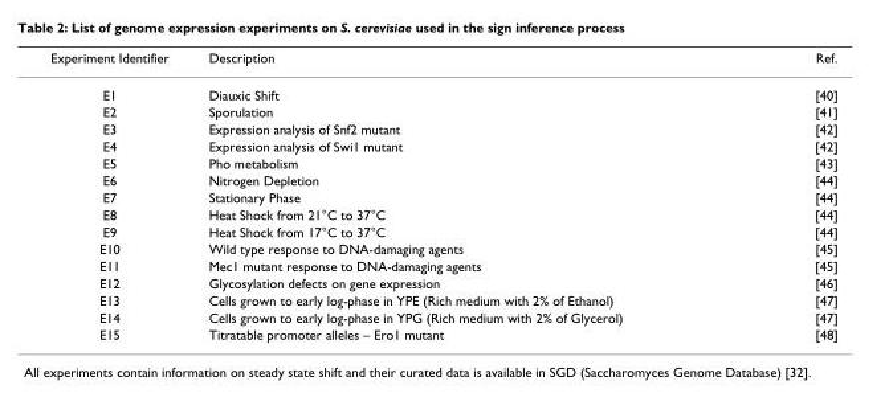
<table><thead><tr><td>Experiment Identifier</td><td>Description</td><td>Ref.</td></tr></thead><tbody><tr><td>E1</td><td>Diauxic Shift</td><td>[40]</td></tr><tr><td>E2</td><td>Sporulation</td><td>[41]</td></tr><tr><td>E3</td><td>Expression analysis of Snf2 mutant</td><td>[42]</td></tr><tr><td>E4</td><td>Expression analysis of Swi1 mutant</td><td>[42]</td></tr><tr><td>E5</td><td>Pho metabolism</td><td>[43]</td></tr><tr><td>E6</td><td>Nitrogen Depletion</td><td>[44]</td></tr><tr><td>E7</td><td>Stationary Phase</td><td>[44]</td></tr><tr><td>E8</td><td>Heat Shock from 21°C to 37°C</td><td>[44]</td></tr><tr><td>E9</td><td>Heat Shock from 17°C to 37°C</td><td>[44]</td></tr><tr><td>E10</td><td>Wild type response to DNA-damaging agents</td><td>[45]</td></tr><tr><td>E11</td><td>Mec1 mutant response to DNA-damaging agents</td><td>[45]</td></tr><tr><td>E12</td><td>Glycosylation defects on gene expression</td><td>[46]</td></tr><tr><td>E13</td><td>Cells grown to early log-phase in YPE (Rich medium with 2% of Ethanol)</td><td>[47]</td></tr><tr><td>E14</td><td>Cells grown to early log-phase in YPG (Rich medium with 2% of Glycerol)</td><td>[47]</td></tr><tr><td>E15</td><td>Titratable promoter alleles – Ero1 mutant</td><td>[48]</td></tr></tbody></table>